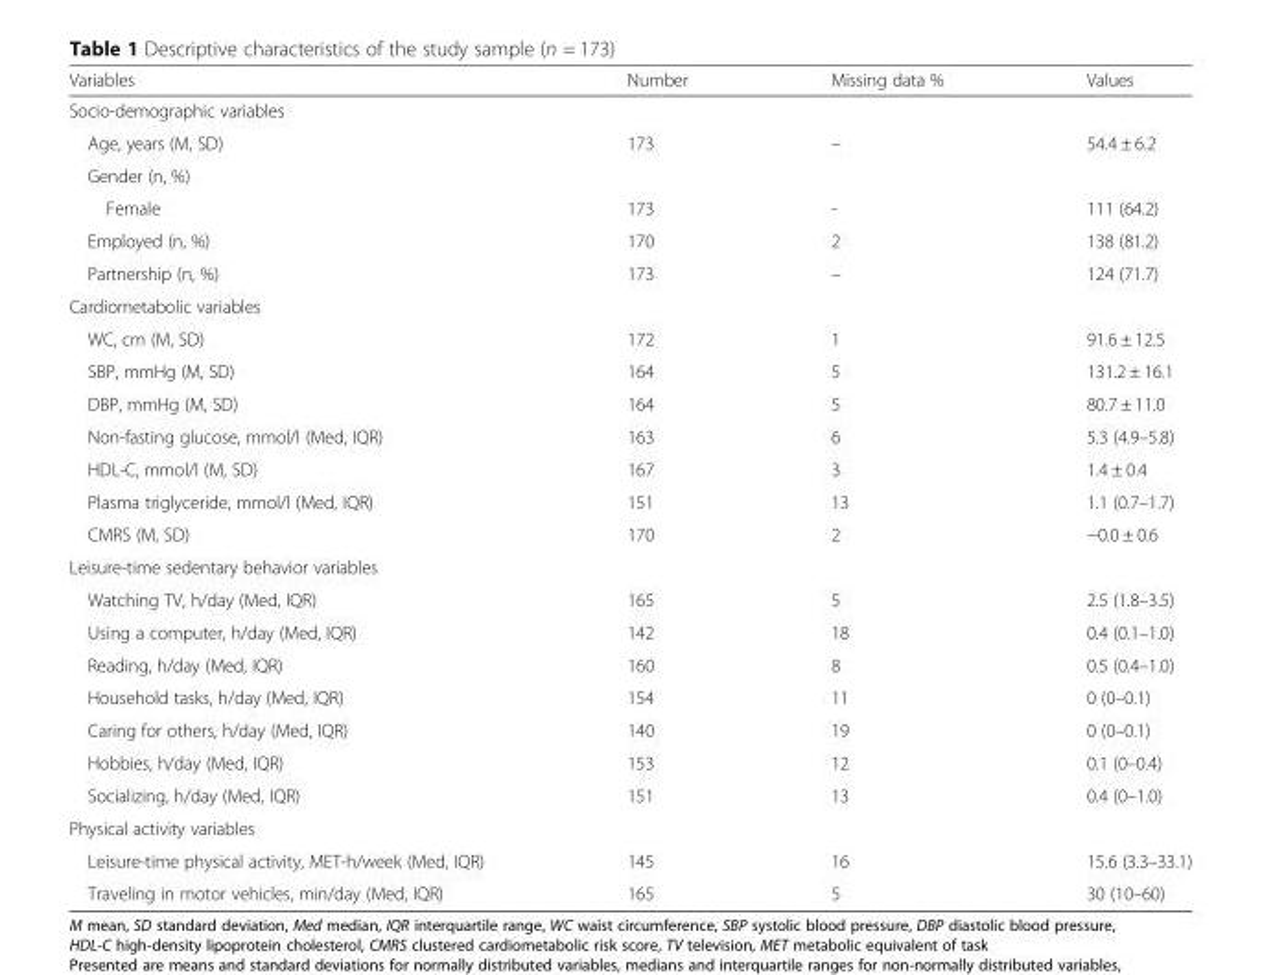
<table><thead><tr><td>Variables</td><td>Number</td><td>Missing data %</td><td>Values</td></tr></thead><tbody><tr><td colspan="4">Socio-demographic variables</td></tr><tr><td>Age, years (M, SD)</td><td>173</td><td>–</td><td>54.4 ± 6.2</td></tr><tr><td colspan="4">Gender (n, %)</td></tr><tr><td>Female</td><td>173</td><td>-</td><td>111 (64.2)</td></tr><tr><td>Employed (n, %)</td><td>170</td><td>2</td><td>138 (81.2)</td></tr><tr><td>Partnership (n, %)</td><td>173</td><td>–</td><td>124 (71.7)</td></tr><tr><td colspan="4">Cardiometabolic variables</td></tr><tr><td>WC, cm (M, SD)</td><td>172</td><td>1</td><td>91.6 ± 12.5</td></tr><tr><td>SBP, mmHg (M, SD)</td><td>164</td><td>5</td><td>131.2 ± 16.1</td></tr><tr><td>DBP, mmHg (M, SD)</td><td>164</td><td>5</td><td>80.7 ± 11.0</td></tr><tr><td>Non-fasting glucose, mmol/l (Med, IQR)</td><td>163</td><td>6</td><td>5.3 (4.9–5.8)</td></tr><tr><td>HDL-C, mmol/l (M, SD)</td><td>167</td><td>3</td><td>1.4 ± 0.4</td></tr><tr><td>Plasma triglyceride, mmol/l (Med, IQR)</td><td>151</td><td>13</td><td>1.1 (0.7–1.7)</td></tr><tr><td>CMRS (M, SD)</td><td>170</td><td>2</td><td>−0.0 ± 0.6</td></tr><tr><td colspan="4">Leisure-time sedentary behavior variables</td></tr><tr><td>Watching TV, h/day (Med, IQR)</td><td>165</td><td>5</td><td>2.5 (1.8–3.5)</td></tr><tr><td>Using a computer, h/day (Med, IQR)</td><td>142</td><td>18</td><td>0.4 (0.1–1.0)</td></tr><tr><td>Reading, h/day (Med, IQR)</td><td>160</td><td>8</td><td>0.5 (0.4–1.0)</td></tr><tr><td>Household tasks, h/day (Med, IQR)</td><td>154</td><td>11</td><td>0 (0–0.1)</td></tr><tr><td>Caring for others, h/day (Med, IQR)</td><td>140</td><td>19</td><td>0 (0–0.1)</td></tr><tr><td>Hobbies, h/day (Med, IQR)</td><td>153</td><td>12</td><td>0.1 (0–0.4)</td></tr><tr><td>Socializing, h/day (Med, IQR)</td><td>151</td><td>13</td><td>0.4 (0–1.0)</td></tr><tr><td colspan="4">Physical activity variables</td></tr><tr><td>Leisure-time physical activity, MET-h/week (Med, IQR)</td><td>145</td><td>16</td><td>15.6 (3.3–33.1)</td></tr><tr><td>Traveling in motor vehicles, min/day (Med, IQR)</td><td>165</td><td>5</td><td>30 (10–60)</td></tr></tbody></table>